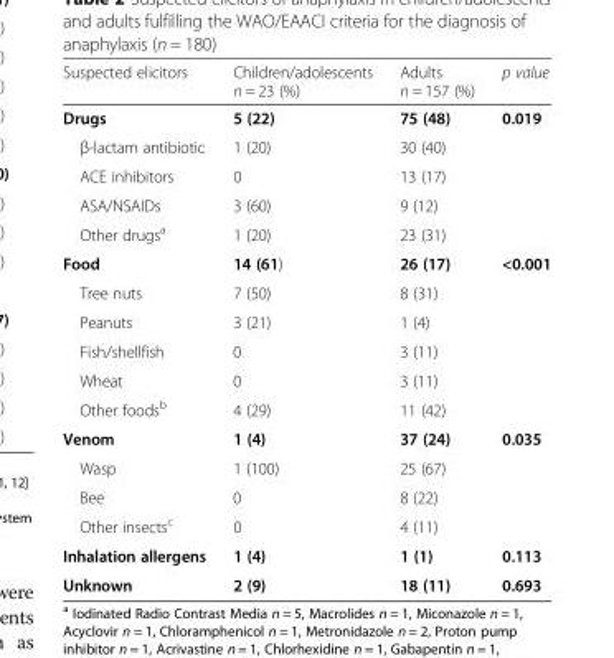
<table><thead><tr><td>Suspected elicitors</td><td>Children/adolescents n = 23 (%)</td><td>Adults n = 157 (%)</td><td>p value</td></tr></thead><tbody><tr><td>Drugs</td><td>5 (22)</td><td>75 (48)</td><td>0.019</td></tr><tr><td>β-lactam antibiotic</td><td>1 (20)</td><td>30 (40)</td><td></td></tr><tr><td>ACE inhibitors</td><td>0</td><td>13 (17)</td><td></td></tr><tr><td>ASA/NSAIDs</td><td>3 (60)</td><td>9 (12)</td><td></td></tr><tr><td>Other drugs<sup>a</sup></td><td>1 (20)</td><td>23 (31)</td><td></td></tr><tr><td>Food</td><td>14 (61)</td><td>26 (17)</td><td>&lt;0.001</td></tr><tr><td>Tree nuts</td><td>7 (50)</td><td>8 (31)</td><td></td></tr><tr><td>Peanuts</td><td>3 (21)</td><td>1 (4)</td><td></td></tr><tr><td>Fish/shellfish</td><td>0</td><td>3 (11)</td><td></td></tr><tr><td>Wheat</td><td>0</td><td>3 (11)</td><td></td></tr><tr><td>Other foods<sup>b</sup></td><td>4 (29)</td><td>11 (42)</td><td></td></tr><tr><td>Venom</td><td>1 (4)</td><td>37 (24)</td><td>0.035</td></tr><tr><td>Wasp</td><td>1 (100)</td><td>25 (67)</td><td></td></tr><tr><td>Bee</td><td>0</td><td>8 (22)</td><td></td></tr><tr><td>Other insects<sup>c</sup></td><td>0</td><td>4 (11)</td><td></td></tr><tr><td>Inhalation allergens</td><td>1 (4)</td><td>1 (1)</td><td>0.113</td></tr><tr><td>Unknown</td><td>2 (9)</td><td>18 (11)</td><td>0.693</td></tr></tbody></table>